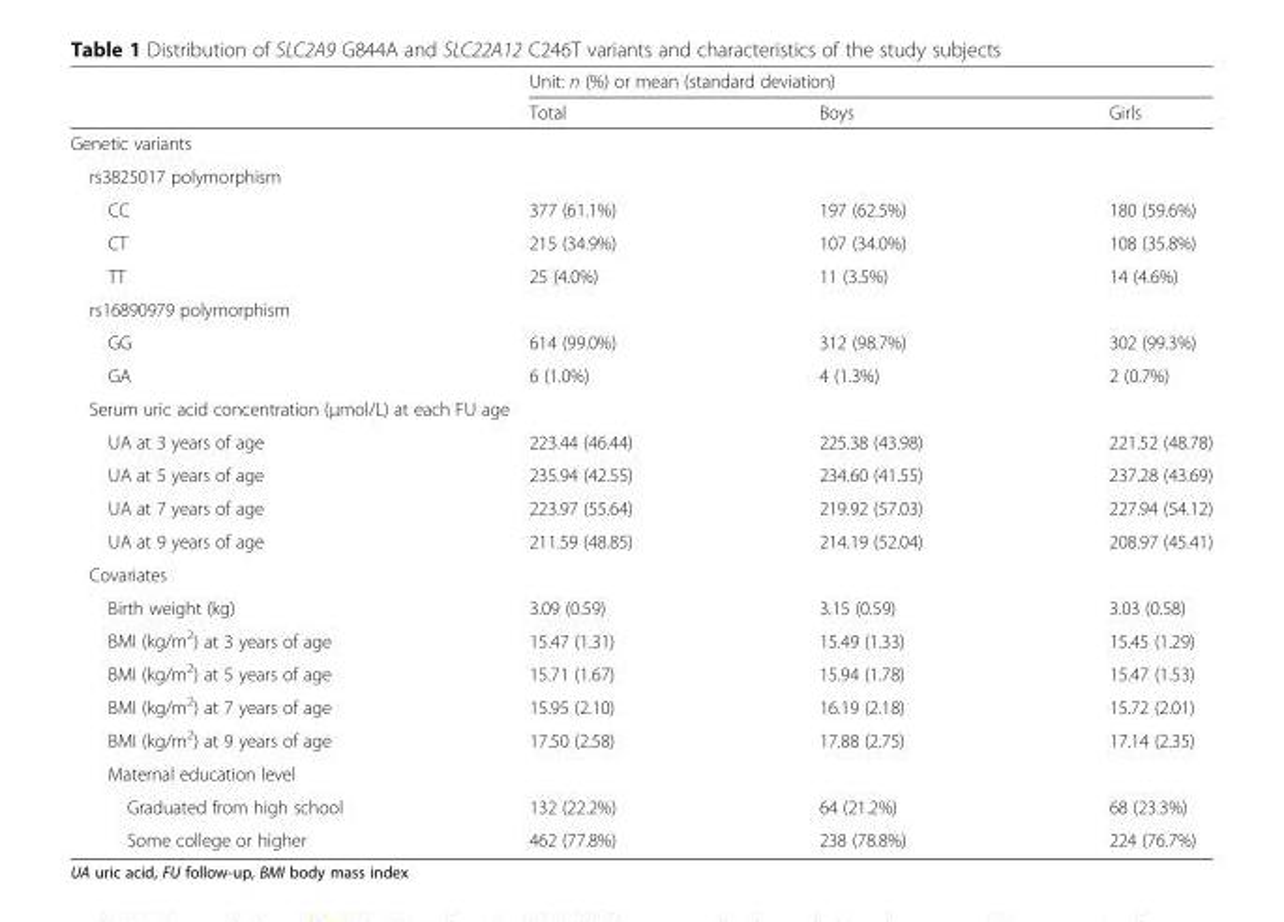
<table><thead><tr><td rowspan="2"></td><td colspan="3">Unit: n (%) or mean (standard deviation)</td></tr><tr><td>Total</td><td>Boys</td><td>Girls</td></tr></thead><tbody><tr><td colspan="4">Genetic variants</td></tr><tr><td colspan="4">rs3825017 polymorphism</td></tr><tr><td>CC</td><td>377 (61.1%)</td><td>197 (62.5%)</td><td>180 (59.6%)</td></tr><tr><td>CT</td><td>215 (34.9%)</td><td>107 (34.0%)</td><td>108 (35.8%)</td></tr><tr><td>TT</td><td>25 (4.0%)</td><td>11 (3.5%)</td><td>14 (4.6%)</td></tr><tr><td colspan="4">rs16890979 polymorphism</td></tr><tr><td>GG</td><td>614 (99.0%)</td><td>312 (98.7%)</td><td>302 (99.3%)</td></tr><tr><td>GA</td><td>6 (1.0%)</td><td>4 (1.3%)</td><td>2 (0.7%)</td></tr><tr><td colspan="4">Serum uric acid concentration (μmol/L) at each FU age</td></tr><tr><td>UA at 3 years of age</td><td>223.44 (46.44)</td><td>225.38 (43.98)</td><td>221.52 (48.78)</td></tr><tr><td>UA at 5 years of age</td><td>235.94 (42.55)</td><td>234.60 (41.55)</td><td>237.28 (43.69)</td></tr><tr><td>UA at 7 years of age</td><td>223.97 (55.64)</td><td>219.92 (57.03)</td><td>227.94 (54.12)</td></tr><tr><td>UA at 9 years of age</td><td>211.59 (48.85)</td><td>214.19 (52.04)</td><td>208.97 (45.41)</td></tr><tr><td colspan="4">Covariates</td></tr><tr><td>Birth weight (kg)</td><td>3.09 (0.59)</td><td>3.15 (0.59)</td><td>3.03 (0.58)</td></tr><tr><td>BMI (kg/m<sup>2</sup>) at 3 years of age</td><td>15.47 (1.31)</td><td>15.49 (1.33)</td><td>15.45 (1.29)</td></tr><tr><td>BMI (kg/m<sup>2</sup>) at 5 years of age</td><td>15.71 (1.67)</td><td>15.94 (1.78)</td><td>15.47 (1.53)</td></tr><tr><td>BMI (kg/m<sup>2</sup>) at 7 years of age</td><td>15.95 (2.10)</td><td>16.19 (2.18)</td><td>15.72 (2.01)</td></tr><tr><td>BMI (kg/m<sup>2</sup>) at 9 years of age</td><td>17.50 (2.58)</td><td>17.88 (2.75)</td><td>17.14 (2.35)</td></tr><tr><td colspan="4">Maternal education level</td></tr><tr><td>Graduated from high school</td><td>132 (22.2%)</td><td>64 (21.2%)</td><td>68 (23.3%)</td></tr><tr><td>Some college or higher</td><td>462 (77.8%)</td><td>238 (78.8%)</td><td>224 (76.7%)</td></tr></tbody></table>